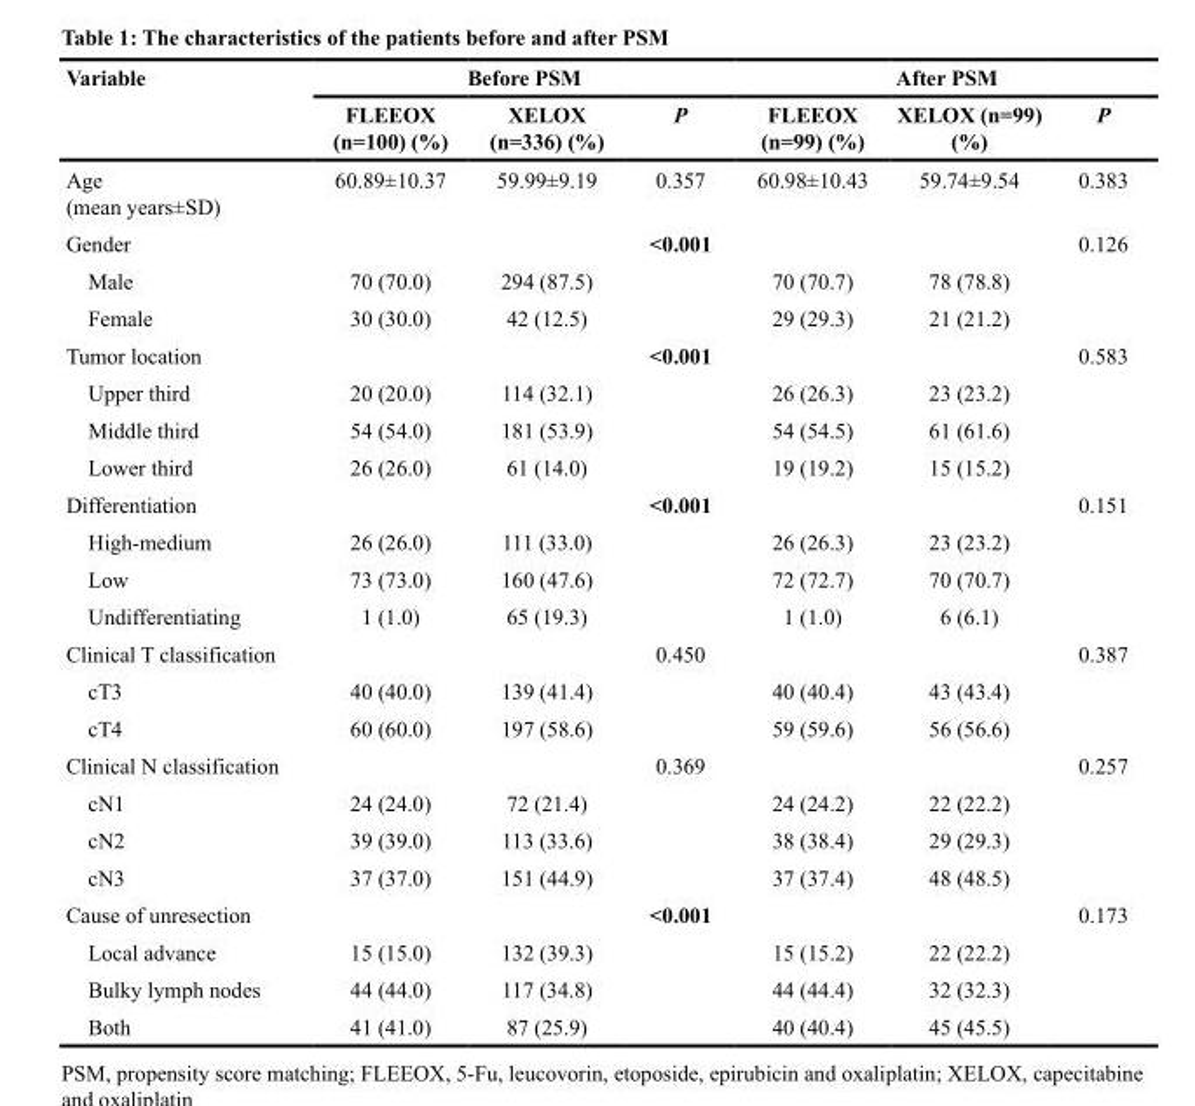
<table><thead><tr><td rowspan="2">Variable</td><td colspan="3">Before PSM</td><td colspan="3">After PSM</td></tr><tr><td>FLEEOX (n=100) (%)</td><td>XELOX (n=336) (%)</td><td>P</td><td>FLEEOX (n=99) (%)</td><td>XELOX (n=99) (%)</td><td>P</td></tr></thead><tbody><tr><td>Age (mean years±SD)</td><td>60.89±10.37</td><td>59.99±9.19</td><td>0.357</td><td>60.98±10.43</td><td>59.74±9.54</td><td>0.383</td></tr><tr><td>Gender</td><td></td><td></td><td>&lt;0.001</td><td></td><td></td><td>0.126</td></tr><tr><td>Male</td><td>70 (70.0)</td><td>294 (87.5)</td><td></td><td>70 (70.7)</td><td>78 (78.8)</td><td></td></tr><tr><td>Female</td><td>30 (30.0)</td><td>42 (12.5)</td><td></td><td>29 (29.3)</td><td>21 (21.2)</td><td></td></tr><tr><td>Tumor location</td><td></td><td></td><td>&lt;0.001</td><td></td><td></td><td>0.583</td></tr><tr><td>Upper third</td><td>20 (20.0)</td><td>114 (32.1)</td><td></td><td>26 (26.3)</td><td>23 (23.2)</td><td></td></tr><tr><td>Middle third</td><td>54 (54.0)</td><td>181 (53.9)</td><td></td><td>54 (54.5)</td><td>61 (61.6)</td><td></td></tr><tr><td>Lower third</td><td>26 (26.0)</td><td>61 (14.0)</td><td></td><td>19 (19.2)</td><td>15 (15.2)</td><td></td></tr><tr><td>Differentiation</td><td></td><td></td><td>&lt;0.001</td><td></td><td></td><td>0.151</td></tr><tr><td>High-medium</td><td>26 (26.0)</td><td>111 (33.0)</td><td></td><td>26 (26.3)</td><td>23 (23.2)</td><td></td></tr><tr><td>Low</td><td>73 (73.0)</td><td>160 (47.6)</td><td></td><td>72 (72.7)</td><td>70 (70.7)</td><td></td></tr><tr><td>Undifferentiating</td><td>1 (1.0)</td><td>65 (19.3)</td><td></td><td>1 (1.0)</td><td>6 (6.1)</td><td></td></tr><tr><td>Clinical T classification</td><td></td><td></td><td>0.450</td><td></td><td></td><td>0.387</td></tr><tr><td>cT3</td><td>40 (40.0)</td><td>139 (41.4)</td><td></td><td>40 (40.4)</td><td>43 (43.4)</td><td></td></tr><tr><td>cT4</td><td>60 (60.0)</td><td>197 (58.6)</td><td></td><td>59 (59.6)</td><td>56 (56.6)</td><td></td></tr><tr><td>Clinical N classification</td><td></td><td></td><td>0.369</td><td></td><td></td><td>0.257</td></tr><tr><td>cN1</td><td>24 (24.0)</td><td>72 (21.4)</td><td></td><td>24 (24.2)</td><td>22 (22.2)</td><td></td></tr><tr><td>cN2</td><td>39 (39.0)</td><td>113 (33.6)</td><td></td><td>38 (38.4)</td><td>29 (29.3)</td><td></td></tr><tr><td>cN3</td><td>37 (37.0)</td><td>151 (44.9)</td><td></td><td>37 (37.4)</td><td>48 (48.5)</td><td></td></tr><tr><td>Cause of unresection</td><td></td><td></td><td>&lt;0.001</td><td></td><td></td><td>0.173</td></tr><tr><td>Local advance</td><td>15 (15.0)</td><td>132 (39.3)</td><td></td><td>15 (15.2)</td><td>22 (22.2)</td><td></td></tr><tr><td>Bulky lymph nodes</td><td>44 (44.0)</td><td>117 (34.8)</td><td></td><td>44 (44.4)</td><td>32 (32.3)</td><td></td></tr><tr><td>Both</td><td>41 (41.0)</td><td>87 (25.9)</td><td></td><td>40 (40.4)</td><td>45 (45.5)</td><td></td></tr></tbody></table>